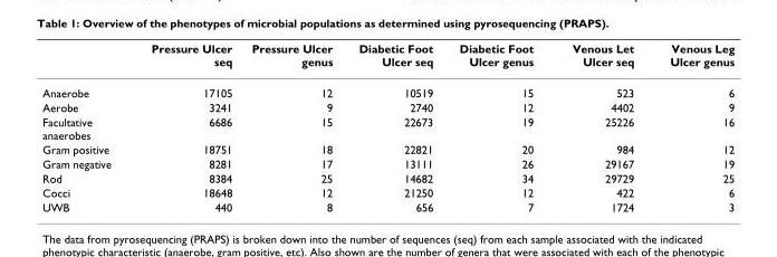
<table><thead><tr><td></td><td>Pressure Ulcer seq</td><td>Pressure Ulcer genus</td><td>Diabetic Foot Ulcer seq</td><td>Diabetic Foot Ulcer genus</td><td>Venous Let Ulcer seq</td><td>Venous Leg Ulcer genus</td></tr></thead><tbody><tr><td>Anaerobe</td><td>17105</td><td>12</td><td>10519</td><td>15</td><td>523</td><td>6</td></tr><tr><td>Aerobe</td><td>3241</td><td>9</td><td>2740</td><td>12</td><td>4402</td><td>9</td></tr><tr><td>Facultative anaerobes</td><td>6686</td><td>15</td><td>22673</td><td>19</td><td>25226</td><td>16</td></tr><tr><td>Gram positive</td><td>18751</td><td>18</td><td>22821</td><td>20</td><td>984</td><td>12</td></tr><tr><td>Gram negative</td><td>8281</td><td>17</td><td>13111</td><td>26</td><td>29167</td><td>19</td></tr><tr><td>Rod</td><td>8384</td><td>25</td><td>14682</td><td>34</td><td>29729</td><td>25</td></tr><tr><td>Cocci</td><td>18648</td><td>12</td><td>21250</td><td>12</td><td>422</td><td>6</td></tr><tr><td>UWB</td><td>440</td><td>8</td><td>656</td><td>7</td><td>1724</td><td>3</td></tr></tbody></table>